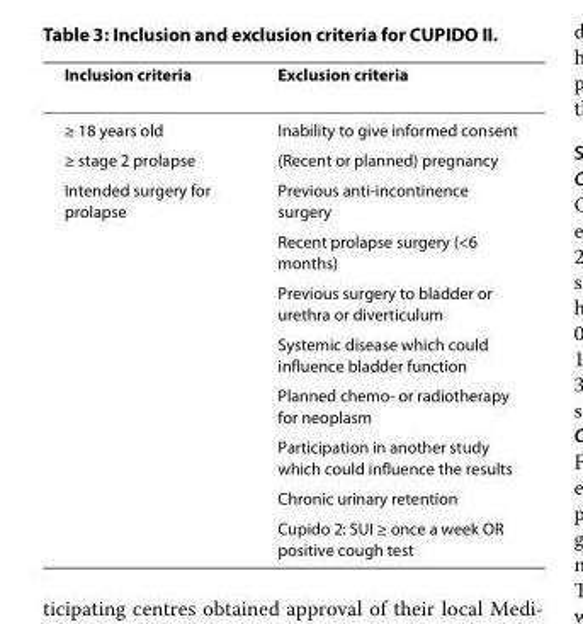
<table><thead><tr><td>Inclusion criteria</td><td>Exclusion criteria</td></tr></thead><tbody><tr><td>≥ 18 years old</td><td>Inability to give informed consent</td></tr><tr><td>≥ stage 2 prolapse</td><td>(Recent or planned) pregnancy</td></tr><tr><td rowspan="8">Intended surgery for prolapse</td><td>Previous anti-incontinence surgery</td></tr><tr><td>Recent prolapse surgery (&lt;6 months)</td></tr><tr><td>Previous surgery to bladder or urethra or diverticulum</td></tr><tr><td>Systemic disease which could influence bladder function</td></tr><tr><td>Planned chemo- or radiotherapy for neoplasm</td></tr><tr><td>Participation in another study which could influence the results</td></tr><tr><td>Chronic urinary retention</td></tr><tr><td>Cupido 2: SUI ≥ once a week OR positive cough test</td></tr></tbody></table>